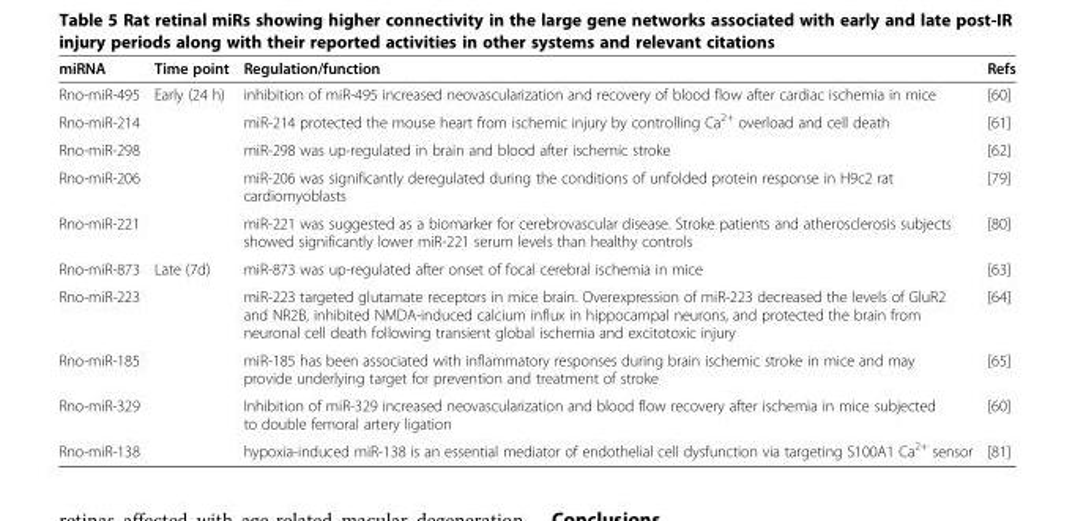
<table><thead><tr><td>miRNA</td><td>Time point</td><td>Regulation/function</td><td>Refs</td></tr></thead><tbody><tr><td>Rno-miR-495</td><td>Early (24 h)</td><td>inhibition of miR-495 increased neovascularization and recovery of blood flow after cardiac ischemia in mice</td><td>[60]</td></tr><tr><td>Rno-miR-214</td><td></td><td>miR-214 protected the mouse heart from ischemic injury by controlling Ca<sup>2+</sup> overload and cell death</td><td>[61]</td></tr><tr><td>Rno-miR-298</td><td></td><td>miR-298 was up-regulated in brain and blood after ischemic stroke</td><td>[62]</td></tr><tr><td>Rno-miR-206</td><td></td><td>miR-206 was significantly deregulated during the conditions of unfolded protein response in H9c2 rat cardiomyoblasts</td><td>[79]</td></tr><tr><td>Rno-miR-221</td><td></td><td>miR-221 was suggested as a biomarker for cerebrovascular disease. Stroke patients and atherosclerosis subjects showed significantly lower miR-221 serum levels than healthy controls</td><td>[80]</td></tr><tr><td>Rno-miR-873</td><td>Late (7d)</td><td>miR-873 was up-regulated after onset of focal cerebral ischemia in mice</td><td>[63]</td></tr><tr><td>Rno-miR-223</td><td></td><td>miR-223 targeted glutamate receptors in mice brain. Overexpression of miR-223 decreased the levels of GluR2 and NR2B, inhibited NMDA-induced calcium influx in hippocampal neurons, and protected the brain from neuronal cell death following transient global ischemia and excitotoxic injury</td><td>[64]</td></tr><tr><td>Rno-miR-185</td><td></td><td>miR-185 has been associated with inflammatory responses during brain ischemic stroke in mice and may provide underlying target for prevention and treatment of stroke</td><td>[65]</td></tr><tr><td>Rno-miR-329</td><td></td><td>Inhibition of miR-329 increased neovascularization and blood flow recovery after ischemia in mice subjected to double femoral artery ligation</td><td>[60]</td></tr><tr><td>Rno-miR-138</td><td></td><td>hypoxia-induced miR-138 is an essential mediator of endothelial cell dysfunction via targeting S100A1 Ca<sup>2+</sup> sensor</td><td>[81]</td></tr></tbody></table>